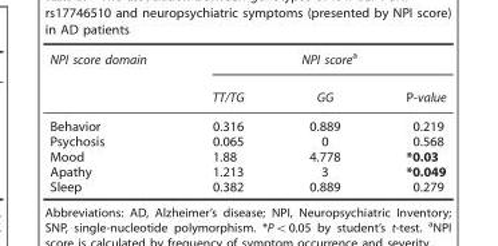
<table><thead><tr><td rowspan="2">NPI score domain</td><td colspan="3">NPI score<sup>a</sup></td></tr><tr><td>TT/TG</td><td>GG</td><td>P-value</td></tr></thead><tbody><tr><td>Behavior</td><td>0.316</td><td>0.889</td><td>0.219</td></tr><tr><td>Psychosis</td><td>0.065</td><td>0</td><td>0.568</td></tr><tr><td>Mood</td><td>1.88</td><td>4.778</td><td>*0.03</td></tr><tr><td>Apathy</td><td>1.213</td><td>3</td><td>*0.049</td></tr><tr><td>Sleep</td><td>0.382</td><td>0.889</td><td>0.279</td></tr></tbody></table>